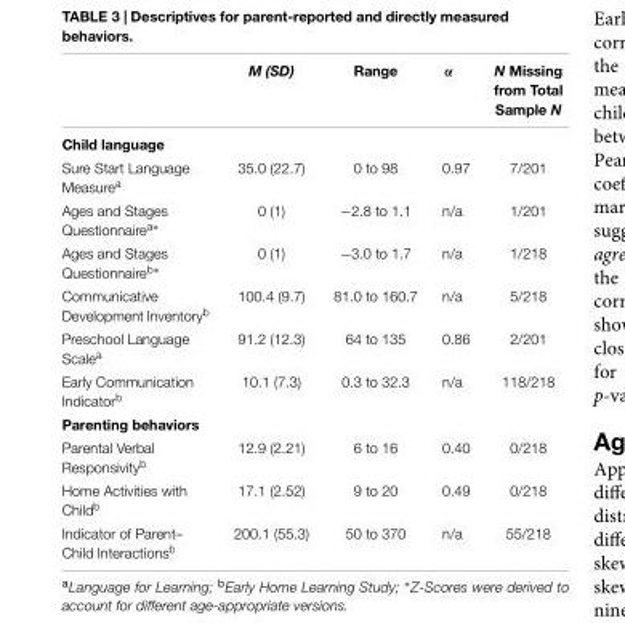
<table><thead><tr><td></td><td>M (SD)</td><td>Range</td><td>α</td><td>N Missing from Total Sample N</td></tr></thead><tbody><tr><td colspan="5">Child language</td></tr><tr><td>Sure Start Language Measure<sup>a</sup></td><td>35.0 (22.7)</td><td>0 to 98</td><td>0.97</td><td>7/201</td></tr><tr><td>Ages and Stages Questionnaire<sup>a∗</sup></td><td>0 (1)</td><td>−2.8 to 1.1</td><td>n/a</td><td>1/201</td></tr><tr><td>Ages and Stages Questionnaire<sup>b∗</sup></td><td>0 (1)</td><td>−3.0 to 1.7</td><td>n/a</td><td>1/218</td></tr><tr><td>Communicative Development Inventory<sup>b</sup></td><td>100.4 (9.7)</td><td>81.0 to 160.7</td><td>n/a</td><td>5/218</td></tr><tr><td>Preschool Language Scale<sup>a</sup></td><td>91.2 (12.3)</td><td>64 to 135</td><td>0.86</td><td>2/201</td></tr><tr><td>Early Communication Indicator<sup>b</sup></td><td>10.1 (7.3)</td><td>0.3 to 32.3</td><td>n/a</td><td>118/218</td></tr><tr><td colspan="5">Parenting behaviors</td></tr><tr><td>Parental Verbal Responsivity<sup>b</sup></td><td>12.9 (2.21)</td><td>6 to 16</td><td>0.40</td><td>0/218</td></tr><tr><td>Home Activities with Child<sup>b</sup></td><td>17.1 (2.52)</td><td>9 to 20</td><td>0.49</td><td>0/218</td></tr><tr><td>Indicator of Parent– Child Interactions<sup>b</sup></td><td>200.1 (55.3)</td><td>50 to 370</td><td>n/a</td><td>55/218</td></tr></tbody></table>